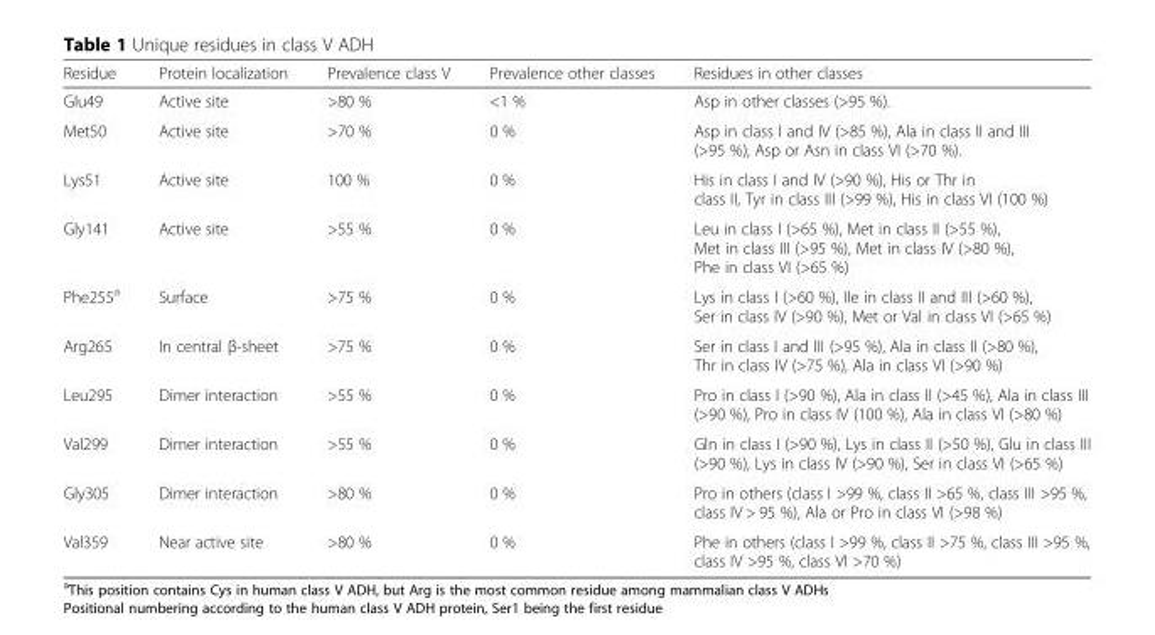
<table><thead><tr><td>Residue</td><td>Protein localization</td><td>Prevalence class V</td><td>Prevalence other classes</td><td>Residues in other classes</td></tr></thead><tbody><tr><td>Glu49</td><td>Active site</td><td>&gt;80 %</td><td>&lt;1 %</td><td>Asp in other classes (&gt;95 %).</td></tr><tr><td>Met50</td><td>Active site</td><td>&gt;70 %</td><td>0 %</td><td>Asp in class I and IV (&gt;85 %), Ala in class II and III (&gt;95 %), Asp or Asn in class VI (&gt;70 %).</td></tr><tr><td>Lys51</td><td>Active site</td><td>100 %</td><td>0 %</td><td>His in class I and IV (&gt;90 %), His or Thr in class II, Tyr in class III (&gt;99 %), His in class VI (100 %)</td></tr><tr><td>Gly141</td><td>Active site</td><td>&gt;55 %</td><td>0 %</td><td>Leu in class I (&gt;65 %), Met in class II (&gt;55 %), Met in class III (&gt;95 %), Met in class IV (&gt;80 %), Phe in class VI (&gt;65 %)</td></tr><tr><td>Phe255<sup>a</sup></td><td>Surface</td><td>&gt;75 %</td><td>0 %</td><td>Lys in class I (&gt;60 %), Ile in class II and III (&gt;60 %), Ser in class IV (&gt;90 %), Met or Val in class VI (&gt;65 %)</td></tr><tr><td>Arg265</td><td>In central β-sheet</td><td>&gt;75 %</td><td>0 %</td><td>Ser in class I and III (&gt;95 %), Ala in class II (&gt;80 %), Thr in class IV (&gt;75 %), Ala in class VI (&gt;90 %)</td></tr><tr><td>Leu295</td><td>Dimer interaction</td><td>&gt;55 %</td><td>0 %</td><td>Pro in class I (&gt;90 %), Ala in class II (&gt;45 %), Ala in class III (&gt;90 %), Pro in class IV (100 %), Ala in class VI (&gt;80 %)</td></tr><tr><td>Val299</td><td>Dimer interaction</td><td>&gt;55 %</td><td>0 %</td><td>Gln in class I (&gt;90 %), Lys in class II (&gt;50 %), Glu in class III (&gt;90 %), Lys in class IV (&gt;90 %), Ser in class VI (&gt;65 %)</td></tr><tr><td>Gly305</td><td>Dimer interaction</td><td>&gt;80 %</td><td>0 %</td><td>Pro in others (class I &gt;99 %, class II &gt;65 %, class III &gt;95 %, class IV &gt; 95 %), Ala or Pro in class VI (&gt;98 %)</td></tr><tr><td>Val359</td><td>Near active site</td><td>&gt;80 %</td><td>0 %</td><td>Phe in others (class I &gt;99 %, class II &gt;75 %, class III &gt;95 %, class IV &gt;95 %, class VI &gt;70 %)</td></tr></tbody></table>